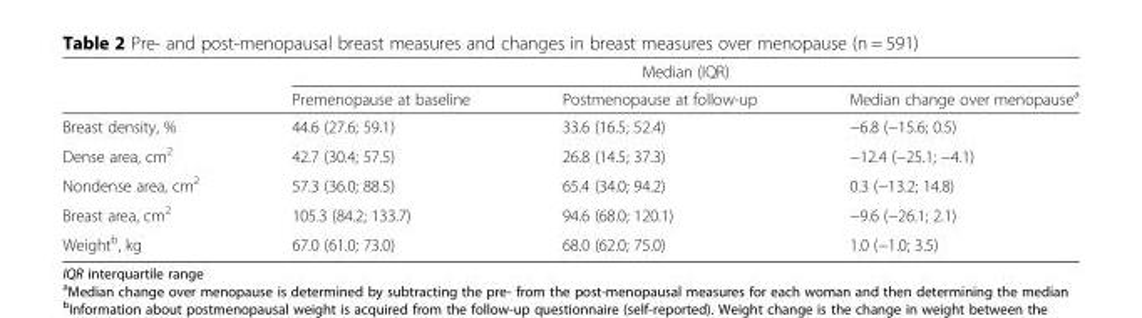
<table><thead><tr><td rowspan="2"></td><td colspan="3">Median (IQR)</td></tr><tr><td>Premenopause at baseline</td><td>Postmenopause at follow-up</td><td>Median change over menopause<sup>a</sup></td></tr></thead><tbody><tr><td>Breast density, %</td><td>44.6 (27.6; 59.1)</td><td>33.6 (16.5; 52.4)</td><td>−6.8 (−15.6; 0.5)</td></tr><tr><td>Dense area, cm<sup>2</sup></td><td>42.7 (30.4; 57.5)</td><td>26.8 (14.5; 37.3)</td><td>−12.4 (−25.1; −4.1)</td></tr><tr><td>Nondense area, cm<sup>2</sup></td><td>57.3 (36.0; 88.5)</td><td>65.4 (34.0; 94.2)</td><td>0.3 (−13.2; 14.8)</td></tr><tr><td>Breast area, cm<sup>2</sup></td><td>105.3 (84.2; 133.7)</td><td>94.6 (68.0; 120.1)</td><td>−9.6 (−26.1; 2.1)</td></tr><tr><td>Weight<sup>b</sup>, kg</td><td>67.0 (61.0; 73.0)</td><td>68.0 (62.0; 75.0)</td><td>1.0 (−1.0; 3.5)</td></tr></tbody></table>